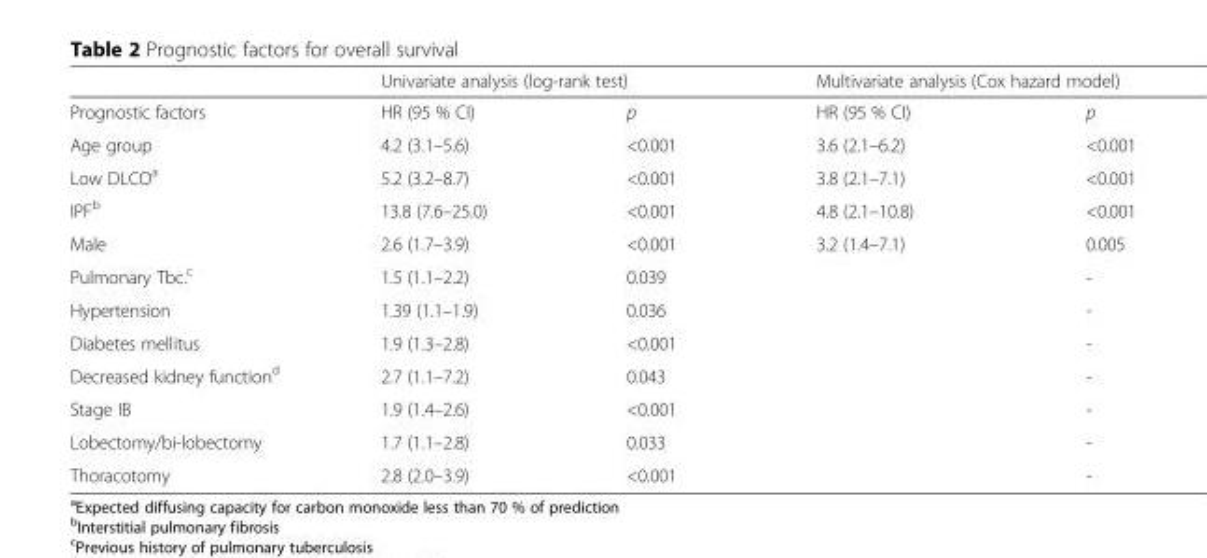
<table><thead><tr><td rowspan="2">Prognostic factors</td><td colspan="2">Univariate analysis (log-rank test)</td><td colspan="2">Multivariate analysis (Cox hazard model)</td></tr><tr><td>HR (95 % CI)</td><td>p</td><td>HR (95 % CI)</td><td>p</td></tr></thead><tbody><tr><td>Age group</td><td>4.2 (3.1–5.6)</td><td>&lt;0.001</td><td>3.6 (2.1–6.2)</td><td>&lt;0.001</td></tr><tr><td>Low DLCO<sup>a</sup></td><td>5.2 (3.2–8.7)</td><td>&lt;0.001</td><td>3.8 (2.1–7.1)</td><td>&lt;0.001</td></tr><tr><td>IPF<sup>b</sup></td><td>13.8 (7.6–25.0)</td><td>&lt;0.001</td><td>4.8 (2.1–10.8)</td><td>&lt;0.001</td></tr><tr><td>Male</td><td>2.6 (1.7–3.9)</td><td>&lt;0.001</td><td>3.2 (1.4–7.1)</td><td>0.005</td></tr><tr><td>Pulmonary Tbc.<sup>c</sup></td><td>1.5 (1.1–2.2)</td><td>0.039</td><td></td><td>-</td></tr><tr><td>Hypertension</td><td>1.39 (1.1–1.9)</td><td>0.036</td><td></td><td>-</td></tr><tr><td>Diabetes mellitus</td><td>1.9 (1.3–2.8)</td><td>&lt;0.001</td><td></td><td>-</td></tr><tr><td>Decreased kidney function<sup>d</sup></td><td>2.7 (1.1–7.2)</td><td>0.043</td><td></td><td>-</td></tr><tr><td>Stage IB</td><td>1.9 (1.4–2.6)</td><td>&lt;0.001</td><td></td><td>-</td></tr><tr><td>Lobectomy/bi-lobectomy</td><td>1.7 (1.1–2.8)</td><td>0.033</td><td></td><td>-</td></tr><tr><td>Thoracotomy</td><td>2.8 (2.0–3.9)</td><td>&lt;0.001</td><td></td><td>-</td></tr></tbody></table>